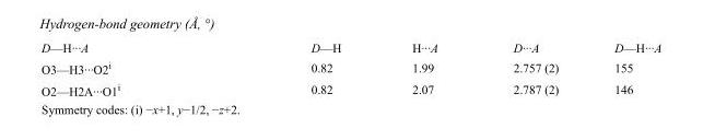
<table><tbody><tr><td>D—H···A</td><td>D—H</td><td>H···A</td><td>D···A</td><td>D—H···A</td></tr><tr><td>O3—H3···O2<sup>i</sup></td><td>0.82</td><td>1.99</td><td>2.757 (2)</td><td>155</td></tr><tr><td>O2—H2A···O1<sup>i</sup></td><td>0.82</td><td>2.07</td><td>2.787 (2)</td><td>146</td></tr></tbody></table>